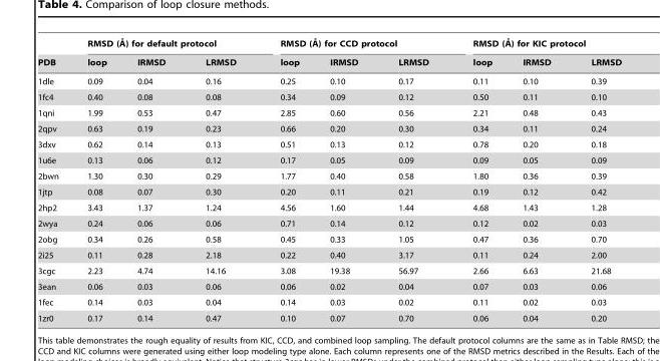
<table><thead><tr><td rowspan="2">PDB</td><td colspan="3">RMSD (A˚ ) for default protocol</td><td colspan="3">RMSD (A˚ ) for CCD protocol</td><td colspan="3">RMSD (A˚ ) for KIC protocol</td></tr><tr><td>loop</td><td>IRMSD</td><td>LRMSD</td><td>loop</td><td>IRMSD</td><td>LRMSD</td><td>loop</td><td>IRMSD</td><td>LRMSD</td></tr></thead><tbody><tr><td>1dle</td><td>0.09</td><td>0.04</td><td>0.16</td><td>0.25</td><td>0.10</td><td>0.17</td><td>0.11</td><td>0.10</td><td>0.39</td></tr><tr><td>1fc4</td><td>0.40</td><td>0.08</td><td>0.08</td><td>0.34</td><td>0.09</td><td>0.12</td><td>0.50</td><td>0.11</td><td>0.10</td></tr><tr><td>1qni</td><td>1.99</td><td>0.53</td><td>0.47</td><td>2.85</td><td>0.60</td><td>0.56</td><td>2.21</td><td>0.48</td><td>0.43</td></tr><tr><td>2qpv</td><td>0.63</td><td>0.19</td><td>0.23</td><td>0.66</td><td>0.20</td><td>0.30</td><td>0.34</td><td>0.11</td><td>0.24</td></tr><tr><td>3dxv</td><td>0.62</td><td>0.14</td><td>0.13</td><td>0.51</td><td>0.13</td><td>0.12</td><td>0.78</td><td>0.20</td><td>0.18</td></tr><tr><td>1u6e</td><td>0.13</td><td>0.06</td><td>0.12</td><td>0.17</td><td>0.05</td><td>0.09</td><td>0.09</td><td>0.05</td><td>0.09</td></tr><tr><td>2bwn</td><td>1.30</td><td>0.30</td><td>0.29</td><td>1.77</td><td>0.40</td><td>0.58</td><td>1.80</td><td>0.36</td><td>0.39</td></tr><tr><td>1jtp</td><td>0.08</td><td>0.07</td><td>0.30</td><td>0.20</td><td>0.11</td><td>0.21</td><td>0.19</td><td>0.12</td><td>0.42</td></tr><tr><td>2hp2</td><td>3.43</td><td>1.37</td><td>1.24</td><td>4.56</td><td>1.60</td><td>1.44</td><td>4.68</td><td>1.43</td><td>1.28</td></tr><tr><td>2wya</td><td>0.24</td><td>0.06</td><td>0.06</td><td>0.71</td><td>0.14</td><td>0.12</td><td>0.12</td><td>0.02</td><td>0.03</td></tr><tr><td>2obg</td><td>0.34</td><td>0.26</td><td>0.58</td><td>0.45</td><td>0.33</td><td>1.05</td><td>0.47</td><td>0.36</td><td>0.70</td></tr><tr><td>2i25</td><td>0.11</td><td>0.28</td><td>2.18</td><td>0.22</td><td>0.40</td><td>3.17</td><td>0.11</td><td>0.24</td><td>2.00</td></tr><tr><td>3cgc</td><td>2.23</td><td>4.74</td><td>14.16</td><td>3.08</td><td>19.38</td><td>56.97</td><td>2.66</td><td>6.63</td><td>21.68</td></tr><tr><td>3ean</td><td>0.06</td><td>0.03</td><td>0.06</td><td>0.06</td><td>0.02</td><td>0.04</td><td>0.07</td><td>0.03</td><td>0.06</td></tr><tr><td>1fec</td><td>0.14</td><td>0.03</td><td>0.04</td><td>0.14</td><td>0.03</td><td>0.02</td><td>0.11</td><td>0.02</td><td>0.03</td></tr><tr><td>1zr0</td><td>0.17</td><td>0.14</td><td>0.47</td><td>0.10</td><td>0.07</td><td>0.70</td><td>0.06</td><td>0.04</td><td>0.20</td></tr></tbody></table>